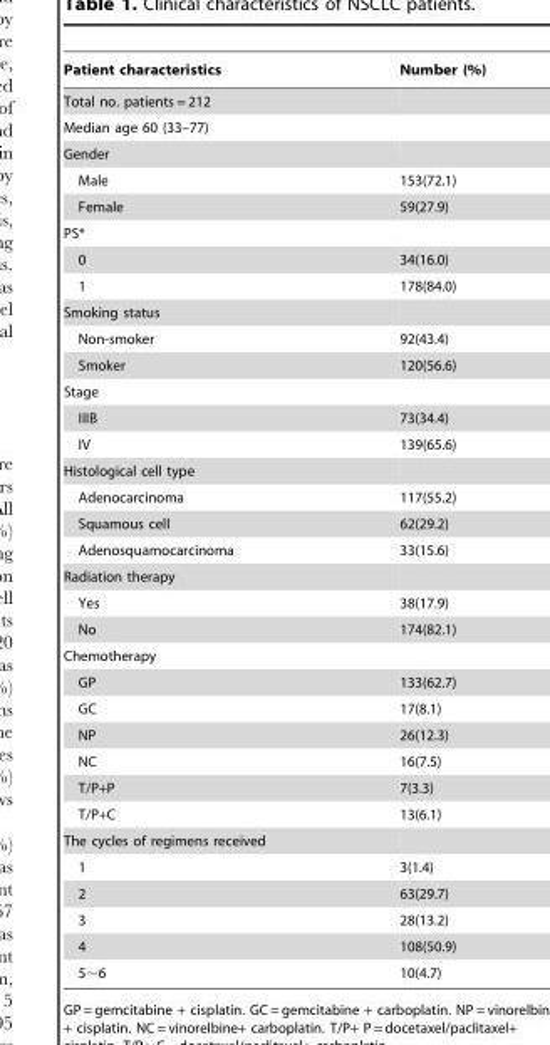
<table><thead><tr><td>Patient characteristics</td><td>Number (%)</td></tr></thead><tbody><tr><td colspan="2">Total no. patients = 212</td></tr><tr><td colspan="2">Median age 60 (33–77)</td></tr><tr><td colspan="2">Gender</td></tr><tr><td>Male</td><td>153(72.1)</td></tr><tr><td>Female</td><td>59(27.9)</td></tr><tr><td colspan="2">PS*</td></tr><tr><td>0</td><td>34(16.0)</td></tr><tr><td>1</td><td>178(84.0)</td></tr><tr><td colspan="2">Smoking status</td></tr><tr><td>Non-smoker</td><td>92(43.4)</td></tr><tr><td>Smoker</td><td>120(56.6)</td></tr><tr><td colspan="2">Stage</td></tr><tr><td>IIIB</td><td>73(34.4)</td></tr><tr><td>IV</td><td>139(65.6)</td></tr><tr><td colspan="2">Histological cell type</td></tr><tr><td>Adenocarcinoma</td><td>117(55.2)</td></tr><tr><td>Squamous cell</td><td>62(29.2)</td></tr><tr><td>Adenosquamocarcinoma</td><td>33(15.6)</td></tr><tr><td colspan="2">Radiation therapy</td></tr><tr><td>Yes</td><td>38(17.9)</td></tr><tr><td>No</td><td>174(82.1)</td></tr><tr><td colspan="2">Chemotherapy</td></tr><tr><td>GP</td><td>133(62.7)</td></tr><tr><td>GC</td><td>17(8.1)</td></tr><tr><td>NP</td><td>26(12.3)</td></tr><tr><td>NC</td><td>16(7.5)</td></tr><tr><td>T/P+P</td><td>7(3.3)</td></tr><tr><td>T/P+C</td><td>13(6.1)</td></tr><tr><td colspan="2">The cycles of regimens received</td></tr><tr><td>1</td><td>3(1.4)</td></tr><tr><td>2</td><td>63(29.7)</td></tr><tr><td>3</td><td>28(13.2)</td></tr><tr><td>4</td><td>108(50.9)</td></tr><tr><td>5∼6</td><td>10(4.7)</td></tr></tbody></table>